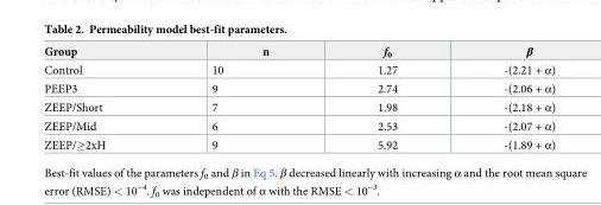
<table><thead><tr><td>Group</td><td>n</td><td>f<sub>0</sub></td><td>β</td></tr></thead><tbody><tr><td>Control</td><td>10</td><td>1.27</td><td>-(2.21 + α)</td></tr><tr><td>PEEP3</td><td>9</td><td>2.74</td><td>-(2.06 + α)</td></tr><tr><td>ZEEP/Short</td><td>7</td><td>1.98</td><td>-(2.18 + α)</td></tr><tr><td>ZEEP/Mid</td><td>6</td><td>2.53</td><td>-(2.07 + α)</td></tr><tr><td>ZEEP/≥2xH</td><td>9</td><td>5.92</td><td>-(1.89 + α)</td></tr></tbody></table>